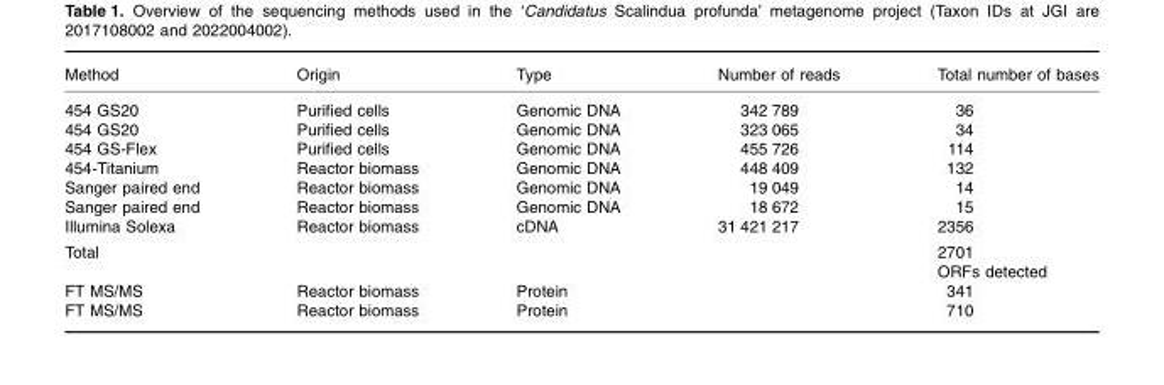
<table><thead><tr><td>Method</td><td>Origin</td><td>Type</td><td>Number of reads</td><td>Total number of bases</td></tr></thead><tbody><tr><td>454 GS20</td><td>Purified cells</td><td>Genomic DNA</td><td>342 789</td><td>36</td></tr><tr><td>454 GS20</td><td>Purified cells</td><td>Genomic DNA</td><td>323 065</td><td>34</td></tr><tr><td>454 GS-Flex</td><td>Purified cells</td><td>Genomic DNA</td><td>455 726</td><td>114</td></tr><tr><td>454-Titanium</td><td>Reactor biomass</td><td>Genomic DNA</td><td>448 409</td><td>132</td></tr><tr><td>Sanger paired end</td><td>Reactor biomass</td><td>Genomic DNA</td><td>19 049</td><td>14</td></tr><tr><td>Sanger paired end</td><td>Reactor biomass</td><td>Genomic DNA</td><td>18 672</td><td>15</td></tr><tr><td>Illumina Solexa</td><td>Reactor biomass</td><td>cDNA</td><td>31 421 217</td><td>2356</td></tr><tr><td rowspan="2">Total</td><td></td><td></td><td></td><td>2701</td></tr><tr><td></td><td></td><td></td><td>ORFs detected</td></tr><tr><td>FT MS/MS</td><td>Reactor biomass</td><td>Protein</td><td></td><td>341</td></tr><tr><td>FT MS/MS</td><td>Reactor biomass</td><td>Protein</td><td></td><td>710</td></tr></tbody></table>